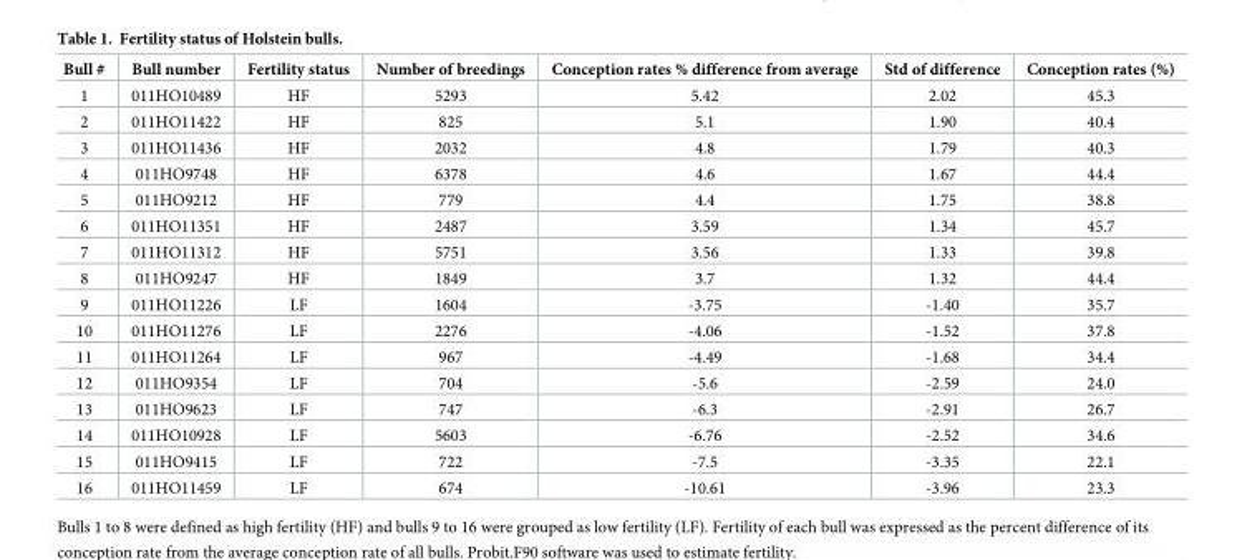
<table><thead><tr><td>Bull #</td><td>Bull number</td><td>Fertility status</td><td>Number of breedings</td><td>Conception rates % difference from average</td><td>Std of difference</td><td>Conception rates (%)</td></tr></thead><tbody><tr><td>1</td><td>011HO10489</td><td>HF</td><td>5293</td><td>5.42</td><td>2.02</td><td>45.3</td></tr><tr><td>2</td><td>011HO11422</td><td>HF</td><td>825</td><td>5.1</td><td>1.90</td><td>40.4</td></tr><tr><td>3</td><td>011HO11436</td><td>HF</td><td>2032</td><td>4.8</td><td>1.79</td><td>40.3</td></tr><tr><td>4</td><td>011HO9748</td><td>HF</td><td>6378</td><td>4.6</td><td>1.67</td><td>44.4</td></tr><tr><td>5</td><td>011HO9212</td><td>HF</td><td>779</td><td>4.4</td><td>1.75</td><td>38.8</td></tr><tr><td>6</td><td>011HO11351</td><td>HF</td><td>2487</td><td>3.59</td><td>1.34</td><td>45.7</td></tr><tr><td>7</td><td>011HO11312</td><td>HF</td><td>5751</td><td>3.56</td><td>1.33</td><td>39.8</td></tr><tr><td>8</td><td>011HO9247</td><td>HF</td><td>1849</td><td>3.7</td><td>1.32</td><td>44.4</td></tr><tr><td>9</td><td>011HO11226</td><td>LF</td><td>1604</td><td>-3.75</td><td>-1.40</td><td>35.7</td></tr><tr><td>10</td><td>011HO11276</td><td>LF</td><td>2276</td><td>-4.06</td><td>-1.52</td><td>37.8</td></tr><tr><td>11</td><td>011HO11264</td><td>LF</td><td>967</td><td>-4.49</td><td>-1.68</td><td>34.4</td></tr><tr><td>12</td><td>011HO9354</td><td>LF</td><td>704</td><td>-5.6</td><td>-2.59</td><td>24.0</td></tr><tr><td>13</td><td>011HO9623</td><td>LF</td><td>747</td><td>-6.3</td><td>-2.91</td><td>26.7</td></tr><tr><td>14</td><td>011HO10928</td><td>LF</td><td>5603</td><td>-6.76</td><td>-2.52</td><td>34.6</td></tr><tr><td>15</td><td>011HO9415</td><td>LF</td><td>722</td><td>-7.5</td><td>-3.35</td><td>22.1</td></tr><tr><td>16</td><td>011HO11459</td><td>LF</td><td>674</td><td>-10.61</td><td>-3.96</td><td>23.3</td></tr></tbody></table>